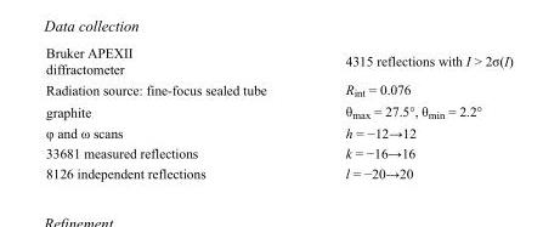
<table><tbody><tr><td>Bruker APEXII diffractometer</td><td>4315 reflections with I &gt; 2σ(I)</td></tr><tr><td>Radiation source: fine-focus sealed tube</td><td>R<sub>int</sub> = 0.076</td></tr><tr><td>graphite</td><td>θ<sub>max</sub> = 27.5°, θ<sub>min</sub> = 2.2°</td></tr><tr><td>φ and ω scans</td><td>h = −12→12</td></tr><tr><td>33681 measured reflections</td><td>k = −16→16</td></tr><tr><td>8126 independent reflections</td><td>l = −20→20</td></tr></tbody></table>